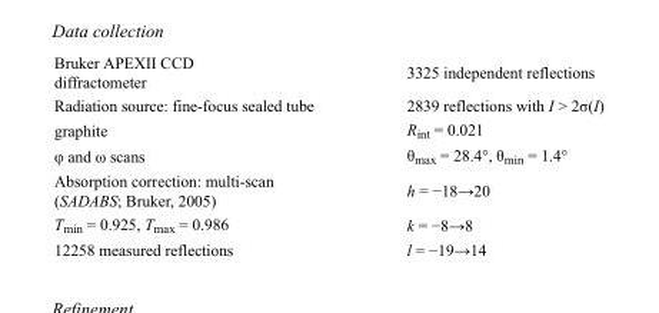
<table><tbody><tr><td>Bruker APEXII CCD diffractometer</td><td>3325 independent reflections</td></tr><tr><td>Radiation source: fine-focus sealed tube</td><td>2839 reflections with I &gt; 2σ(I)</td></tr><tr><td>graphite</td><td>R<sub>int</sub> = 0.021</td></tr><tr><td>φ and ω scans</td><td>θ<sub>max</sub> = 28.4°, θ<sub>min</sub> = 1.4°</td></tr><tr><td>Absorption correction: multi-scan (SADABS; Bruker, 2005)</td><td>h = −18→20</td></tr><tr><td>T<sub>min</sub> = 0.925, T<sub>max</sub> = 0.986</td><td>k = −8→8</td></tr><tr><td>12258 measured reflections</td><td>l = −19→14</td></tr></tbody></table>